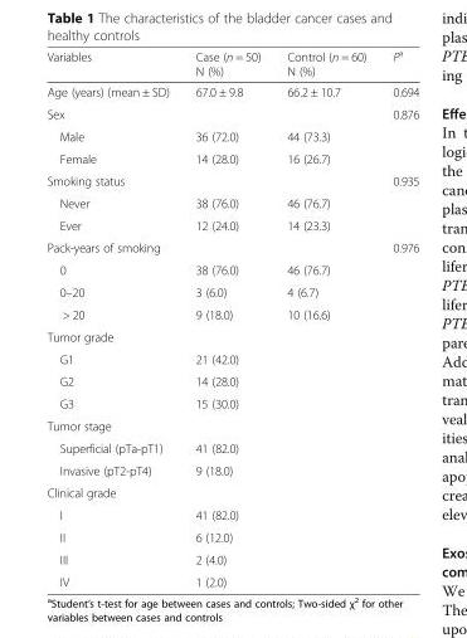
<table><thead><tr><td>Variables</td><td>Case (n = 50) N (%)</td><td>Control (n = 60) N (%)</td><td>P<sup>a</sup></td></tr></thead><tbody><tr><td>Age (years) (mean ± SD)</td><td>67.0 ± 9.8</td><td>66.2 ± 10.7</td><td>0.694</td></tr><tr><td>Sex</td><td></td><td></td><td>0.876</td></tr><tr><td>Male</td><td>36 (72.0)</td><td>44 (73.3)</td><td></td></tr><tr><td>Female</td><td>14 (28.0)</td><td>16 (26.7)</td><td></td></tr><tr><td>Smoking status</td><td></td><td></td><td>0.935</td></tr><tr><td>Never</td><td>38 (76.0)</td><td>46 (76.7)</td><td></td></tr><tr><td>Ever</td><td>12 (24.0)</td><td>14 (23.3)</td><td></td></tr><tr><td>Pack-years of smoking</td><td></td><td></td><td>0.976</td></tr><tr><td>0</td><td>38 (76.0)</td><td>46 (76.7)</td><td></td></tr><tr><td>0–20</td><td>3 (6.0)</td><td>4 (6.7)</td><td></td></tr><tr><td>&gt; 20</td><td>9 (18.0)</td><td>10 (16.6)</td><td></td></tr><tr><td colspan="4">Tumor grade</td></tr><tr><td>G1</td><td>21 (42.0)</td><td></td><td></td></tr><tr><td>G2</td><td>14 (28.0)</td><td></td><td></td></tr><tr><td>G3</td><td>15 (30.0)</td><td></td><td></td></tr><tr><td colspan="4">Tumor stage</td></tr><tr><td>Superficial (pTa-pT1)</td><td>41 (82.0)</td><td></td><td></td></tr><tr><td>Invasive (pT2-pT4)</td><td>9 (18.0)</td><td></td><td></td></tr><tr><td colspan="4">Clinical grade</td></tr><tr><td>I</td><td>41 (82.0)</td><td></td><td></td></tr><tr><td>II</td><td>6 (12.0)</td><td></td><td></td></tr><tr><td>III</td><td>2 (4.0)</td><td></td><td></td></tr><tr><td>IV</td><td>1 (2.0)</td><td></td><td></td></tr></tbody></table>